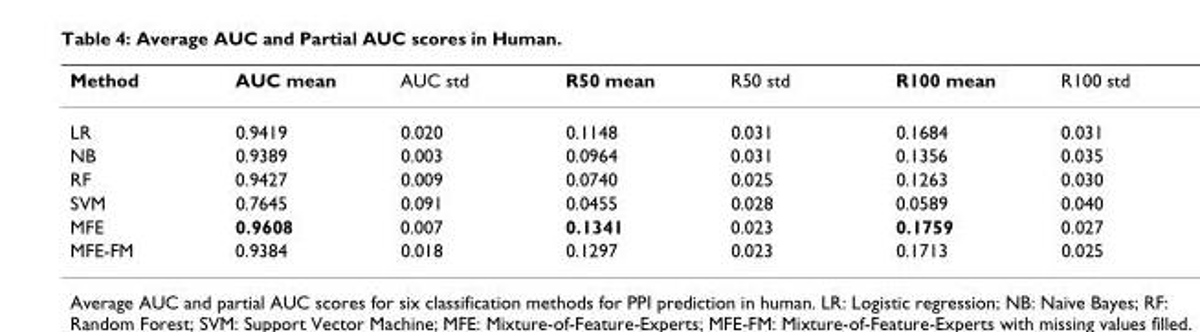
<table><thead><tr><td>Method</td><td>AUC mean</td><td>AUC std</td><td>R50 mean</td><td>R50 std</td><td>R100 mean</td><td>R100 std</td></tr></thead><tbody><tr><td>LR</td><td>0.9419</td><td>0.020</td><td>0.1148</td><td>0.031</td><td>0.1684</td><td>0.031</td></tr><tr><td>NB</td><td>0.9389</td><td>0.003</td><td>0.0964</td><td>0.031</td><td>0.1356</td><td>0.035</td></tr><tr><td>RF</td><td>0.9427</td><td>0.009</td><td>0.0740</td><td>0.025</td><td>0.1263</td><td>0.030</td></tr><tr><td>SVM</td><td>0.7645</td><td>0.091</td><td>0.0455</td><td>0.028</td><td>0.0589</td><td>0.040</td></tr><tr><td>MFE</td><td>0.9608</td><td>0.007</td><td>0.1341</td><td>0.023</td><td>0.1759</td><td>0.027</td></tr><tr><td>MFE-FM</td><td>0.9384</td><td>0.018</td><td>0.1297</td><td>0.023</td><td>0.1713</td><td>0.025</td></tr></tbody></table>